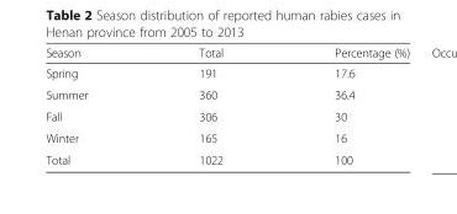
<table><thead><tr><td>Season</td><td>Total</td><td>Percentage (%)</td></tr></thead><tbody><tr><td>Spring</td><td>191</td><td>17.6</td></tr><tr><td>Summer</td><td>360</td><td>36.4</td></tr><tr><td>Fall</td><td>306</td><td>30</td></tr><tr><td>Winter</td><td>165</td><td>16</td></tr><tr><td>Total</td><td>1022</td><td>100</td></tr></tbody></table>